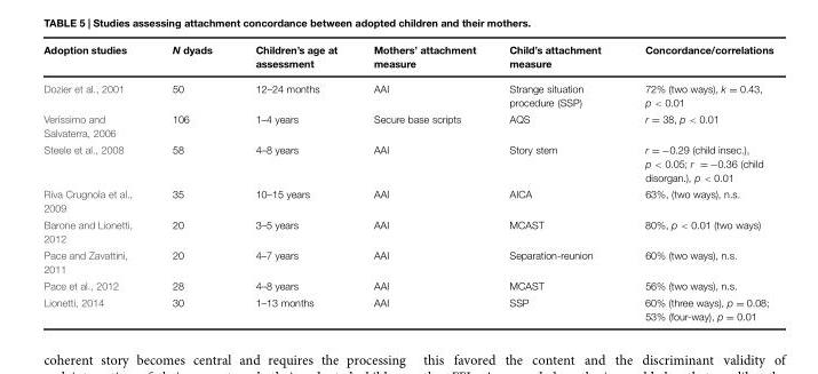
<table><thead><tr><td>Adoption studies</td><td>N dyads</td><td>Children’s age at assessment</td><td>Mothers’ attachment measure</td><td>Child’s attachment measure</td><td>Concordance/correlations</td></tr></thead><tbody><tr><td>Dozier et al., 2001</td><td>50</td><td>12–24 months</td><td>AAI</td><td>Strange situation procedure (SSP)</td><td>72% (two ways), k = 0.43, p &lt; 0.01</td></tr><tr><td>Veríssimo and Salvaterra, 2006</td><td>106</td><td>1–4 years</td><td>Secure base scripts</td><td>AQS</td><td>r = 38, p &lt; 0.01</td></tr><tr><td>Steele et al., 2008</td><td>58</td><td>4–8 years</td><td>AAI</td><td>Story stem</td><td>r = −0.29 (child insec.), p &lt; 0.05; r = −0.36 (child disorgan.), p &lt; 0.01</td></tr><tr><td>Riva Crugnola et al., 2009</td><td>35</td><td>10–15 years</td><td>AAI</td><td>AICA</td><td>63%, (two ways), n.s.</td></tr><tr><td>Barone and Lionetti, 2012</td><td>20</td><td>3–5 years</td><td>AAI</td><td>MCAST</td><td>80%, p &lt; 0.01 (two ways)</td></tr><tr><td>Pace and Zavattini, 2011</td><td>20</td><td>4–7 years</td><td>AAI</td><td>Separation-reunion</td><td>60% (two ways), n.s.</td></tr><tr><td>Pace et al., 2012</td><td>28</td><td>4–8 years</td><td>AAI</td><td>MCAST</td><td>56% (two ways), n.s.</td></tr><tr><td>Lionetti, 2014</td><td>30</td><td>1–13 months</td><td>AAI</td><td>SSP</td><td>60% (three ways), p = 0.08; 53% (four-way), p = 0.01</td></tr></tbody></table>